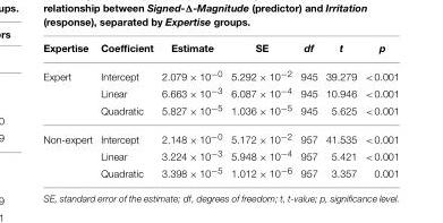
<table><thead><tr><td>Expertise</td><td>Coefficient</td><td>Estimate</td><td>SE</td><td>df</td><td>t</td><td>p</td></tr></thead><tbody><tr><td rowspan="3">Expert</td><td>Intercept</td><td>2.079 × 10<sup>−0</sup></td><td>5.292 × 10<sup>−2</sup></td><td>945</td><td>39.279</td><td>&lt;0.001</td></tr><tr><td>Linear</td><td>6.663 × 10<sup>−3</sup></td><td>6.087 × 10<sup>−4</sup></td><td>945</td><td>10.946</td><td>&lt;0.001</td></tr><tr><td>Quadratic</td><td>5.827 × 10<sup>−5</sup></td><td>1.036 × 10<sup>−5</sup></td><td>945</td><td>5.625</td><td>&lt;0.001</td></tr><tr><td rowspan="3">Non-expert</td><td>Intercept</td><td>2.148 × 10<sup>−0</sup></td><td>5.172 × 10<sup>−2</sup></td><td>957</td><td>41.535</td><td>&lt;0.001</td></tr><tr><td>Linear</td><td>3.224 × 10<sup>−3</sup></td><td>5.948 × 10<sup>−4</sup></td><td>957</td><td>5.421</td><td>&lt;0.001</td></tr><tr><td>Quadratic</td><td>3.398 × 10<sup>−5</sup></td><td>1.012 × 10<sup>−6</sup></td><td>957</td><td>3.357</td><td>0.001</td></tr></tbody></table>